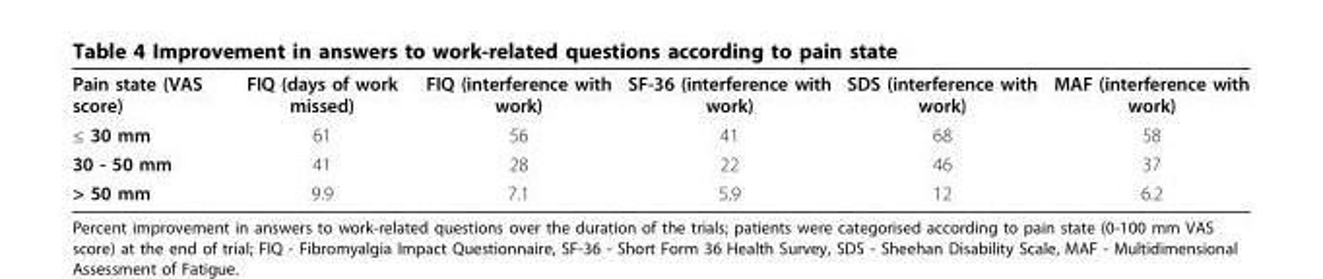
<table><tbody><tr><td>Pain state (VAS score)</td><td>FIQ (days of work missed)</td><td>FIQ (interference with work)</td><td>SF-36 (interference with work)</td><td>SDS (interference with work)</td><td>MAF (interference with work)</td></tr><tr><td>≤ 30 mm</td><td>61</td><td>56</td><td>41</td><td>68</td><td>58</td></tr><tr><td>30 - 50 mm</td><td>41</td><td>28</td><td>22</td><td>46</td><td>37</td></tr><tr><td>&gt; 50 mm</td><td>9.9</td><td>7.1</td><td>5.9</td><td>12</td><td>6.2</td></tr></tbody></table>